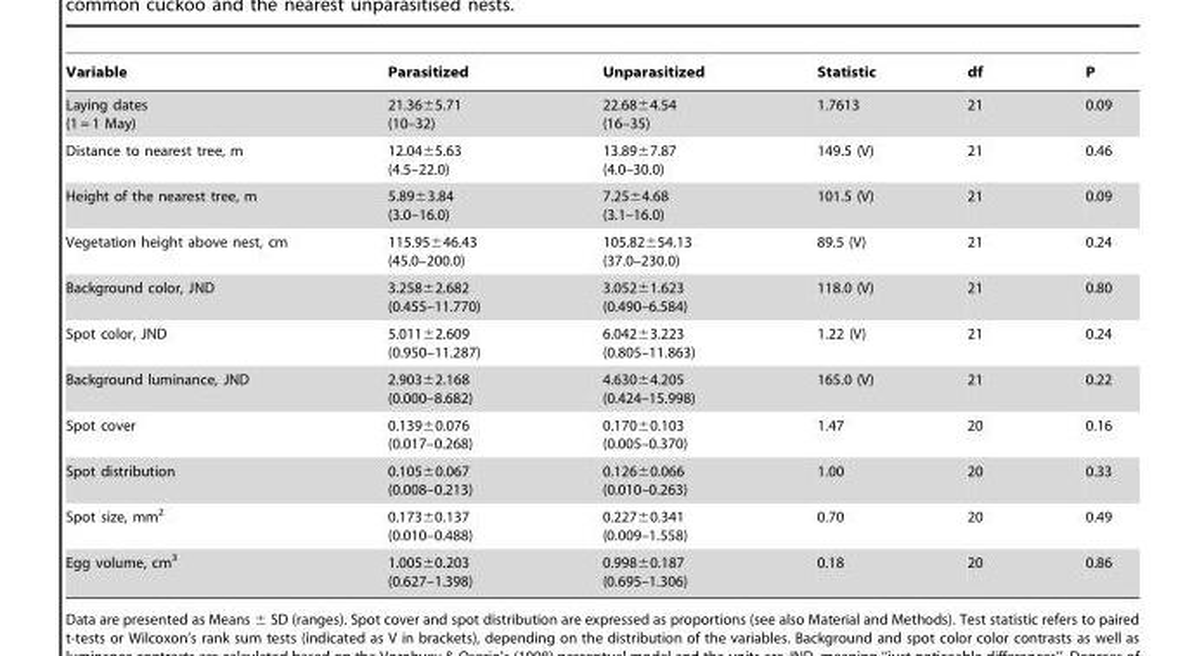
<table><thead><tr><td>Variable</td><td>Parasitized</td><td>Unparasitized</td><td>Statistic</td><td>df</td><td>P</td></tr></thead><tbody><tr><td>Laying dates (1 = 1 May)</td><td>21.36±5.71 (10–32)</td><td>22.68±4.54 (16–35)</td><td>1.7613</td><td>21</td><td>0.09</td></tr><tr><td>Distance to nearest tree, m</td><td>12.04±5.63 (4.5–22.0)</td><td>13.89±7.87 (4.0–30.0)</td><td>149.5 (V)</td><td>21</td><td>0.46</td></tr><tr><td>Height of the nearest tree, m</td><td>5.89±3.84 (3.0–16.0)</td><td>7.25±4.68 (3.1–16.0)</td><td>101.5 (V)</td><td>21</td><td>0.09</td></tr><tr><td>Vegetation height above nest, cm</td><td>115.95±46.43 (45.0–200.0)</td><td>105.82±54.13 (37.0–230.0)</td><td>89.5 (V)</td><td>21</td><td>0.24</td></tr><tr><td>Background color, JND</td><td>3.258±2.682 (0.455–11.770)</td><td>3.052±1.623 (0.490–6.584)</td><td>118.0 (V)</td><td>21</td><td>0.80</td></tr><tr><td>Spot color, JND</td><td>5.011±2.609 (0.950–11.287)</td><td>6.042±3.223 (0.805–11.863)</td><td>1.22 (V)</td><td>21</td><td>0.24</td></tr><tr><td>Background luminance, JND</td><td>2.903±2.168 (0.000–8.682)</td><td>4.630±4.205 (0.424–15.998)</td><td>165.0 (V)</td><td>21</td><td>0.22</td></tr><tr><td>Spot cover</td><td>0.139±0.076 (0.017–0.268)</td><td>0.170±0.103 (0.005–0.370)</td><td>1.47</td><td>20</td><td>0.16</td></tr><tr><td>Spot distribution</td><td>0.105±0.067 (0.008–0.213)</td><td>0.126±0.066 (0.010–0.263)</td><td>1.00</td><td>20</td><td>0.33</td></tr><tr><td>Spot size, mm<sup>2</sup></td><td>0.173±0.137 (0.010–0.488)</td><td>0.227±0.341 (0.009–1.558)</td><td>0.70</td><td>20</td><td>0.49</td></tr><tr><td>Egg volume, cm<sup>3</sup></td><td>1.005±0.203 (0.627–1.398)</td><td>0.998±0.187 (0.695–1.306)</td><td>0.18</td><td>20</td><td>0.86</td></tr></tbody></table>